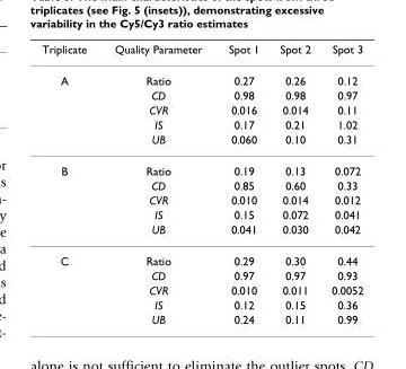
<table><thead><tr><td>Triplicate</td><td>Quality Parameter</td><td>Spot 1</td><td>Spot 2</td><td>Spot 3</td></tr></thead><tbody><tr><td rowspan="5">A</td><td>Ratio</td><td>0.27</td><td>0.26</td><td>0.12</td></tr><tr><td>CD</td><td>0.98</td><td>0.98</td><td>0.97</td></tr><tr><td>CVR</td><td>0.016</td><td>0.014</td><td>0.11</td></tr><tr><td>IS</td><td>0.17</td><td>0.21</td><td>1.02</td></tr><tr><td>UB</td><td>0.060</td><td>0.10</td><td>0.31</td></tr><tr><td rowspan="5">B</td><td>Ratio</td><td>0.19</td><td>0.13</td><td>0.072</td></tr><tr><td>CD</td><td>0.85</td><td>0.60</td><td>0.33</td></tr><tr><td>CVR</td><td>0.010</td><td>0.014</td><td>0.012</td></tr><tr><td>IS</td><td>0.15</td><td>0.072</td><td>0.041</td></tr><tr><td>UB</td><td>0.041</td><td>0.030</td><td>0.042</td></tr><tr><td rowspan="5">C</td><td>Ratio</td><td>0.29</td><td>0.30</td><td>0.44</td></tr><tr><td>CD</td><td>0.97</td><td>0.97</td><td>0.93</td></tr><tr><td>CVR</td><td>0.010</td><td>0.011</td><td>0.0052</td></tr><tr><td>IS</td><td>0.12</td><td>0.15</td><td>0.36</td></tr><tr><td>UB</td><td>0.24</td><td>0.11</td><td>0.99</td></tr></tbody></table>